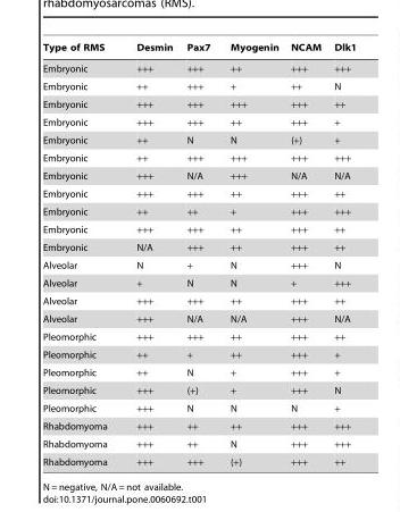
<table><thead><tr><td>Type of RMS</td><td>Desmin</td><td>Pax7</td><td>Myogenin</td><td>NCAM</td><td>Dlk1</td></tr></thead><tbody><tr><td>Embryonic</td><td>+++</td><td>+++</td><td>++</td><td>+++</td><td>+++</td></tr><tr><td>Embryonic</td><td>++</td><td>+++</td><td>+</td><td>++</td><td>N</td></tr><tr><td>Embryonic</td><td>+++</td><td>+++</td><td>+++</td><td>+++</td><td>++</td></tr><tr><td>Embryonic</td><td>+++</td><td>+++</td><td>++</td><td>+++</td><td>+</td></tr><tr><td>Embryonic</td><td>++</td><td>N</td><td>N</td><td>(+)</td><td>+</td></tr><tr><td>Embryonic</td><td>++</td><td>+++</td><td>+++</td><td>+++</td><td>+++</td></tr><tr><td>Embryonic</td><td>+++</td><td>N/A</td><td>+++</td><td>N/A</td><td>N/A</td></tr><tr><td>Embryonic</td><td>+++</td><td>+++</td><td>++</td><td>+++</td><td>++</td></tr><tr><td>Embryonic</td><td>++</td><td>++</td><td>+</td><td>+++</td><td>+++</td></tr><tr><td>Embryonic</td><td>+++</td><td>+++</td><td>++</td><td>+++</td><td>++</td></tr><tr><td>Embryonic</td><td>N/A</td><td>+++</td><td>++</td><td>+++</td><td>++</td></tr><tr><td>Alveolar</td><td>N</td><td>+</td><td>N</td><td>+++</td><td>N</td></tr><tr><td>Alveolar</td><td>+</td><td>N</td><td>N</td><td>+</td><td>+++</td></tr><tr><td>Alveolar</td><td>+++</td><td>+++</td><td>++</td><td>+++</td><td>++</td></tr><tr><td>Alveolar</td><td>+++</td><td>N/A</td><td>N/A</td><td>+++</td><td>N/A</td></tr><tr><td>Pleomorphic</td><td>+++</td><td>+++</td><td>++</td><td>+++</td><td>++</td></tr><tr><td>Pleomorphic</td><td>++</td><td>+</td><td>++</td><td>+++</td><td>+</td></tr><tr><td>Pleomorphic</td><td>++</td><td>N</td><td>+</td><td>+++</td><td>+</td></tr><tr><td>Pleomorphic</td><td>+++</td><td>(+)</td><td>+</td><td>+++</td><td>N</td></tr><tr><td>Pleomorphic</td><td>+++</td><td>N</td><td>N</td><td>N</td><td>+</td></tr><tr><td>Rhabdomyoma</td><td>+++</td><td>++</td><td>++</td><td>+++</td><td>+++</td></tr><tr><td>Rhabdomyoma</td><td>+++</td><td>++</td><td>N</td><td>+++</td><td>+++</td></tr><tr><td>Rhabdomyoma</td><td>+++</td><td>+++</td><td>(+)</td><td>+++</td><td>++</td></tr></tbody></table>